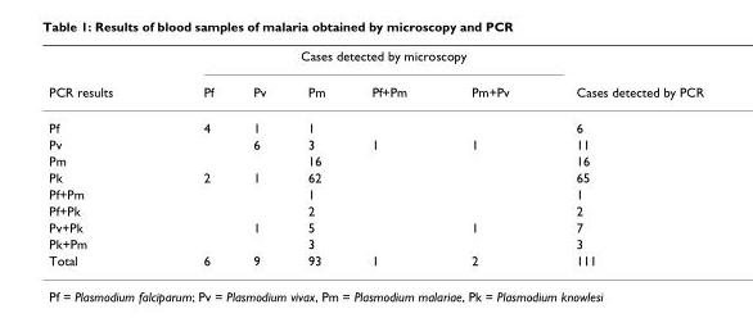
<table><thead><tr><td rowspan="2">PCR results</td><td colspan="5">Cases detected by microscopy</td><td rowspan="2">Cases detected by PCR</td></tr><tr><td>Pf</td><td>Pv</td><td>Pm</td><td>Pf+Pm</td><td>Pm+Pv</td></tr></thead><tbody><tr><td>Pf</td><td>4</td><td>1</td><td>1</td><td></td><td></td><td>6</td></tr><tr><td>Pv</td><td></td><td>6</td><td>3</td><td>1</td><td>1</td><td>11</td></tr><tr><td>Pm</td><td></td><td></td><td>16</td><td></td><td></td><td>16</td></tr><tr><td>Pk</td><td>2</td><td>1</td><td>62</td><td></td><td></td><td>65</td></tr><tr><td>Pf+Pm</td><td></td><td></td><td>1</td><td></td><td></td><td>1</td></tr><tr><td>Pf+Pk</td><td></td><td></td><td>2</td><td></td><td></td><td>2</td></tr><tr><td>Pv+Pk</td><td></td><td>1</td><td>5</td><td></td><td>1</td><td>7</td></tr><tr><td>Pk+Pm</td><td></td><td></td><td>3</td><td></td><td></td><td>3</td></tr><tr><td>Total</td><td>6</td><td>9</td><td>93</td><td>1</td><td>2</td><td>111</td></tr></tbody></table>